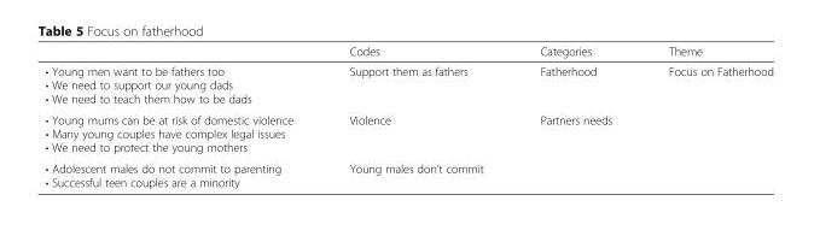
<table><thead><tr><td></td><td>Codes</td><td>Categories</td><td>Theme</td></tr></thead><tbody><tr><td>• Young men want to be fathers too • We need to support our young dads • We need to teach them how to be dads</td><td>Support them as fathers</td><td>Fatherhood</td><td rowspan="3">Focus on Fatherhood</td></tr><tr><td>• Young mums can be at risk of domestic violence • Many young couples have complex legal issues • We need to protect the young mothers</td><td>Violence</td><td rowspan="2">Partners needs</td></tr><tr><td>• Adolescent males do not commit to parenting • Successful teen couples are a minority</td><td>Young males don’t commit</td></tr></tbody></table>